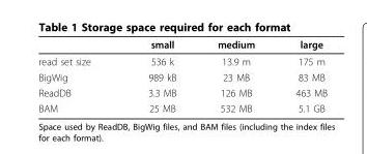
<table><thead><tr><td></td><td>small</td><td>medium</td><td>large</td></tr></thead><tbody><tr><td>read set size</td><td>536 k</td><td>13.9 m</td><td>175 m</td></tr><tr><td>BigWig</td><td>989 kB</td><td>23 MB</td><td>83 MB</td></tr><tr><td>ReadDB</td><td>3.3 MB</td><td>126 MB</td><td>463 MB</td></tr><tr><td>BAM</td><td>25 MB</td><td>532 MB</td><td>5.1 GB</td></tr></tbody></table>